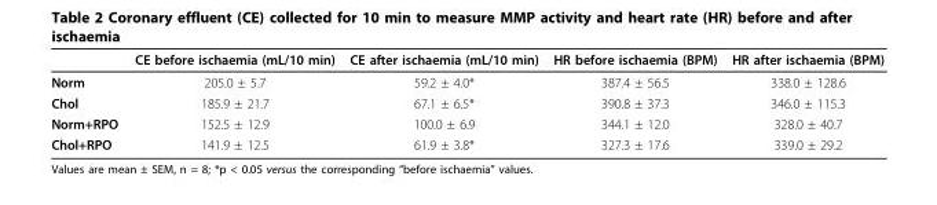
<table><thead><tr><td></td><td>CE before ischaemia (mL/10 min)</td><td>CE after ischaemia (mL/10 min)</td><td>HR before ischaemia (BPM)</td><td>HR after ischaemia (BPM)</td></tr></thead><tbody><tr><td>Norm</td><td>205.0 ± 5.7</td><td>59.2 ± 4.0*</td><td>387.4 ± 56.5</td><td>338.0 ± 128.6</td></tr><tr><td>Chol</td><td>185.9 ± 21.7</td><td>67.1 ± 6.5*</td><td>390.8 ± 37.3</td><td>346.0 ± 115.3</td></tr><tr><td>Norm+RPO</td><td>152.5 ± 12.9</td><td>100.0 ± 6.9</td><td>344.1 ± 12.0</td><td>328.0 ± 40.7</td></tr><tr><td>Chol+RPO</td><td>141.9 ± 12.5</td><td>61.9 ± 3.8*</td><td>327.3 ± 17.6</td><td>339.0 ± 29.2</td></tr></tbody></table>